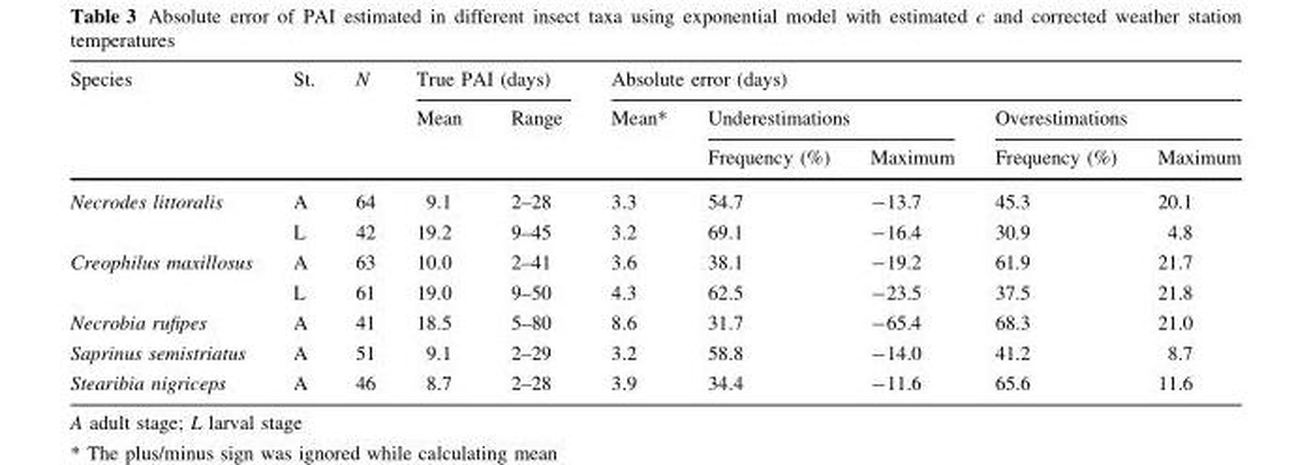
<table><thead><tr><td rowspan="3">Species</td><td rowspan="3">St.</td><td rowspan="3">N</td><td colspan="2">True PAI (days)</td><td colspan="5">Absolute error (days)</td></tr><tr><td rowspan="2">Mean</td><td rowspan="2">Range</td><td rowspan="2">Mean*</td><td colspan="2">Underestimations</td><td colspan="2">Overestimations</td></tr><tr><td>Frequency (%)</td><td>Maximum</td><td>Frequency (%)</td><td>Maximum</td></tr></thead><tbody><tr><td rowspan="2">Necrodes littoralis</td><td>A</td><td>64</td><td>9.1</td><td>2–28</td><td>3.3</td><td>54.7</td><td>-13.7</td><td>45.3</td><td>20.1</td></tr><tr><td>L</td><td>42</td><td>19.2</td><td>9–45</td><td>3.2</td><td>69.1</td><td>-16.4</td><td>30.9</td><td>4.8</td></tr><tr><td rowspan="2">Creophilus maxillosus</td><td>A</td><td>63</td><td>10.0</td><td>2–41</td><td>3.6</td><td>38.1</td><td>-19.2</td><td>61.9</td><td>21.7</td></tr><tr><td>L</td><td>61</td><td>19.0</td><td>9–50</td><td>4.3</td><td>62.5</td><td>-23.5</td><td>37.5</td><td>21.8</td></tr><tr><td>Necrobia rufipes</td><td>A</td><td>41</td><td>18.5</td><td>5–80</td><td>8.6</td><td>31.7</td><td>-65.4</td><td>68.3</td><td>21.0</td></tr><tr><td>Saprinus semistriatus</td><td>A</td><td>51</td><td>9.1</td><td>2–29</td><td>3.2</td><td>58.8</td><td>-14.0</td><td>41.2</td><td>8.7</td></tr><tr><td>Stearibia nigriceps</td><td>A</td><td>46</td><td>8.7</td><td>2–28</td><td>3.9</td><td>34.4</td><td>-11.6</td><td>65.6</td><td>11.6</td></tr></tbody></table>